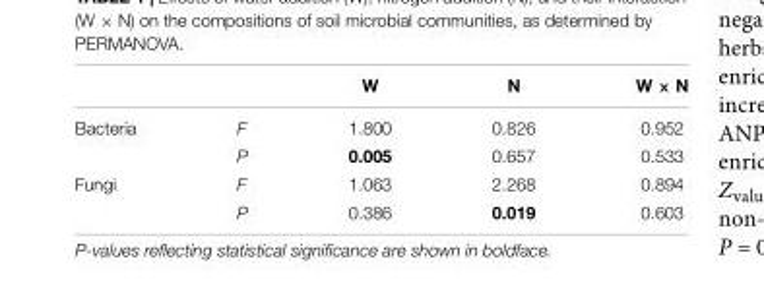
<table><thead><tr><td></td><td></td><td>W</td><td>N</td><td>W × N</td></tr></thead><tbody><tr><td rowspan="2">Bacteria</td><td>F</td><td>1.800</td><td>0.826</td><td>0.952</td></tr><tr><td>P</td><td>0.005</td><td>0.657</td><td>0.533</td></tr><tr><td rowspan="2">Fungi</td><td>F</td><td>1.063</td><td>2.268</td><td>0.894</td></tr><tr><td>P</td><td>0.386</td><td>0.019</td><td>0.603</td></tr></tbody></table>